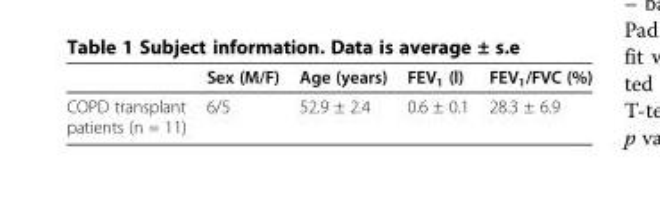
<table><thead><tr><td></td><td>Sex (M/F)</td><td>Age (years)</td><td>FEV<sub>1</sub> (l)</td><td>FEV<sub>1</sub>/FVC (%)</td></tr></thead><tbody><tr><td>COPD transplant patients (n = 11)</td><td>6/5</td><td>52.9 ± 2.4</td><td>0.6 ± 0.1</td><td>28.3 ± 6.9</td></tr></tbody></table>